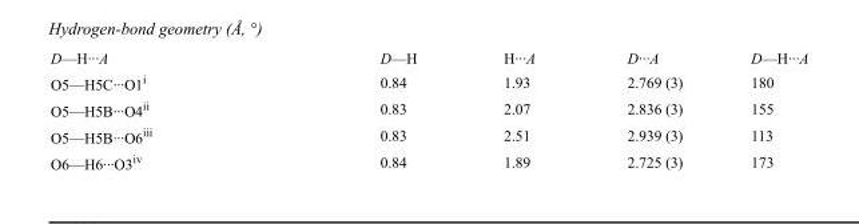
<table><tbody><tr><td>D—H···A</td><td>D—H</td><td>H···A</td><td>D···A</td><td>D—H···A</td></tr><tr><td>O5—H5C···O1<sup>i</sup></td><td>0.84</td><td>1.93</td><td>2.769 (3)</td><td>180</td></tr><tr><td>O5—H5B···O4<sup>ii</sup></td><td>0.83</td><td>2.07</td><td>2.836 (3)</td><td>155</td></tr><tr><td>O5—H5B···O6<sup>iii</sup></td><td>0.83</td><td>2.51</td><td>2.939 (3)</td><td>113</td></tr><tr><td>O6—H6···O3<sup>iv</sup></td><td>0.84</td><td>1.89</td><td>2.725 (3)</td><td>173</td></tr></tbody></table>